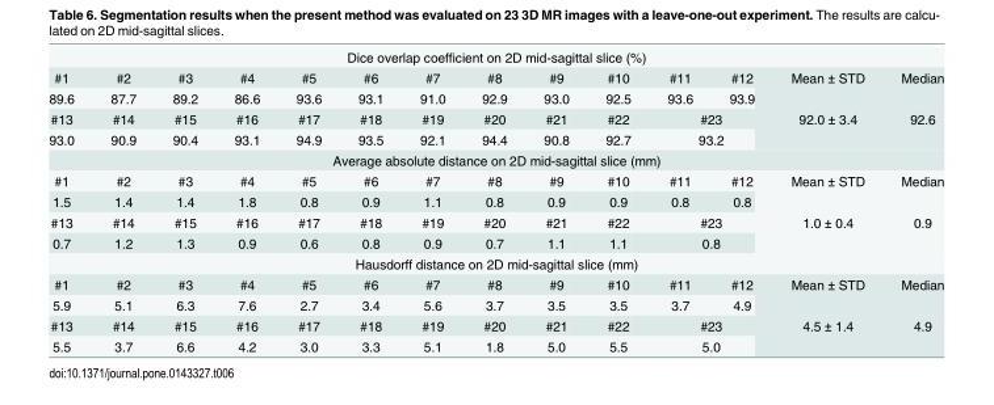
<table><tbody><tr><td colspan="14">Dice overlap coefficient on 2D mid-sagittal slice (%)</td></tr><tr><td>#1</td><td>#2</td><td>#3</td><td>#4</td><td>#5</td><td>#6</td><td>#7</td><td>#8</td><td>#9</td><td>#10</td><td>#11</td><td>#12</td><td rowspan="2">Mean ± STD</td><td rowspan="2">Median</td></tr><tr><td>89.6</td><td>87.7</td><td>89.2</td><td>86.6</td><td>93.6</td><td>93.1</td><td>91.0</td><td>92.9</td><td>93.0</td><td>92.5</td><td>93.6</td><td>93.9</td></tr><tr><td>#13</td><td>#14</td><td>#15</td><td>#16</td><td>#17</td><td>#18</td><td>#19</td><td>#20</td><td>#21</td><td>#22</td><td colspan="2">#23</td><td rowspan="2">92.0 ± 3.4</td><td rowspan="2">92.6</td></tr><tr><td>93.0</td><td>90.9</td><td>90.4</td><td>93.1</td><td>94.9</td><td>93.5</td><td>92.1</td><td>94.4</td><td>90.8</td><td>92.7</td><td colspan="2">93.2</td></tr><tr><td colspan="14">Average absolute distance on 2D mid-sagittal slice (mm)</td></tr><tr><td>#1</td><td>#2</td><td>#3</td><td>#4</td><td>#5</td><td>#6</td><td>#7</td><td>#8</td><td>#9</td><td>#10</td><td>#11</td><td>#12</td><td rowspan="2">Mean ± STD</td><td rowspan="2">Median</td></tr><tr><td>1.5</td><td>1.4</td><td>1.4</td><td>1.8</td><td>0.8</td><td>0.9</td><td>1.1</td><td>0.8</td><td>0.9</td><td>0.9</td><td>0.8</td><td>0.8</td></tr><tr><td>#13</td><td>#14</td><td>#15</td><td>#16</td><td>#17</td><td>#18</td><td>#19</td><td>#20</td><td>#21</td><td>#22</td><td colspan="2">#23</td><td rowspan="2">1.0 ± 0.4</td><td rowspan="2">0.9</td></tr><tr><td>0.7</td><td>1.2</td><td>1.3</td><td>0.9</td><td>0.6</td><td>0.8</td><td>0.9</td><td>0.7</td><td>1.1</td><td>1.1</td><td colspan="2">0.8</td></tr><tr><td colspan="14">Hausdorff distance on 2D mid-sagittal slice (mm)</td></tr><tr><td>#1</td><td>#2</td><td>#3</td><td>#4</td><td>#5</td><td>#6</td><td>#7</td><td>#8</td><td>#9</td><td>#10</td><td>#11</td><td>#12</td><td rowspan="2">Mean ± STD</td><td rowspan="2">Median</td></tr><tr><td>5.9</td><td>5.1</td><td>6.3</td><td>7.6</td><td>2.7</td><td>3.4</td><td>5.6</td><td>3.7</td><td>3.5</td><td>3.5</td><td>3.7</td><td>4.9</td></tr><tr><td>#13</td><td>#14</td><td>#15</td><td>#16</td><td>#17</td><td>#18</td><td>#19</td><td>#20</td><td>#21</td><td>#22</td><td colspan="2">#23</td><td rowspan="2">4.5 ± 1.4</td><td rowspan="2">4.9</td></tr><tr><td>5.5</td><td>3.7</td><td>6.6</td><td>4.2</td><td>3.0</td><td>3.3</td><td>5.1</td><td>1.8</td><td>5.0</td><td>5.5</td><td colspan="2">5.0</td></tr></tbody></table>